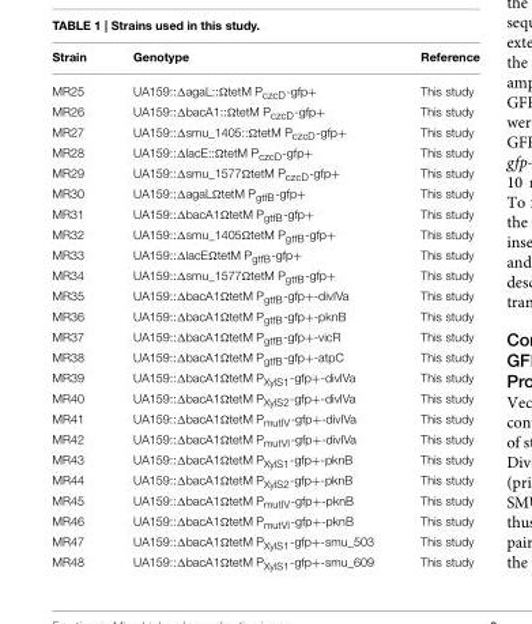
<table><thead><tr><td>Strain</td><td>Genotype</td><td>Reference</td></tr></thead><tbody><tr><td>MR25</td><td>UA159::ΔagaL::ΩtetM P<sub>czcD</sub>-gfp+</td><td>This study</td></tr><tr><td>MR26</td><td>UA159::ΔbacA1::ΩtetM P<sub>czcD</sub>-gfp+</td><td>This study</td></tr><tr><td>MR27</td><td>UA159::Δsmu_1405::ΩtetM P<sub>czcD</sub>-gfp+</td><td>This study</td></tr><tr><td>MR28</td><td>UA159::ΔlacE::ΩtetM P<sub>czcD</sub>-gfp+</td><td>This study</td></tr><tr><td>MR29</td><td>UA159::Δsmu_1577ΩtetM P<sub>czcD</sub>-gfp+</td><td>This study</td></tr><tr><td>MR30</td><td>UA159::ΔagaLΩtetM P<sub>gtfB</sub>-gfp+</td><td>This study</td></tr><tr><td>MR31</td><td>UA159::ΔbacA1ΩtetM P<sub>gtfB</sub>-gfp+</td><td>This study</td></tr><tr><td>MR32</td><td>UA159::Δsmu_1405ΩtetM P<sub>gtfB</sub>-gfp+</td><td>This study</td></tr><tr><td>MR33</td><td>UA159::ΔlacEΩtetM P<sub>gtfB</sub>-gfp+</td><td>This study</td></tr><tr><td>MR34</td><td>UA159::Δsmu_1577ΩtetM P<sub>gtfB</sub>-gfp+</td><td>This study</td></tr><tr><td>MR35</td><td>UA159::ΔbacA1ΩtetM P<sub>gtfB</sub>-gfp+-divIVa</td><td>This study</td></tr><tr><td>MR36</td><td>UA159::ΔbacA1ΩtetM P<sub>gtfB</sub>-gfp+-pknB</td><td>This study</td></tr><tr><td>MR37</td><td>UA159::ΔbacA1ΩtetM P<sub>gtfB</sub>-gfp+-vicR</td><td>This study</td></tr><tr><td>MR38</td><td>UA159::ΔbacA1ΩtetM P<sub>gtfB</sub>-gfp+-atpC</td><td>This study</td></tr><tr><td>MR39</td><td>UA159::ΔbacA1ΩtetM P<sub>XylS1</sub>-gfp+-divIVa</td><td>This study</td></tr><tr><td>MR40</td><td>UA159::ΔbacA1ΩtetM P<sub>XylS2</sub>-gfp+-divIVa</td><td>This study</td></tr><tr><td>MR41</td><td>UA159::ΔbacA1ΩtetM P<sub>mutIV</sub>-gfp+-divIVa</td><td>This study</td></tr><tr><td>MR42</td><td>UA159::ΔbacA1ΩtetM P<sub>mutVI</sub>-gfp+-divIVa</td><td>This study</td></tr><tr><td>MR43</td><td>UA159::ΔbacA1ΩtetM P<sub>XylS1</sub>-gfp+-pknB</td><td>This study</td></tr><tr><td>MR44</td><td>UA159::ΔbacA1ΩtetM P<sub>XylS2</sub>-gfp+-pknB</td><td>This study</td></tr><tr><td>MR45</td><td>UA159::ΔbacA1ΩtetM P<sub>mutIV</sub>-gfp+-pknB</td><td>This study</td></tr><tr><td>MR46</td><td>UA159::ΔbacA1ΩtetM P<sub>mutVI</sub>-gfp+-pknB</td><td>This study</td></tr><tr><td>MR47</td><td>UA159::ΔbacA1ΩtetM P<sub>XylS1</sub>-gfp+-smu_503</td><td>This study</td></tr><tr><td>MR48</td><td>UA159::ΔbacA1ΩtetM P<sub>XylS1</sub>-gfp+-smu_609</td><td>This study</td></tr></tbody></table>